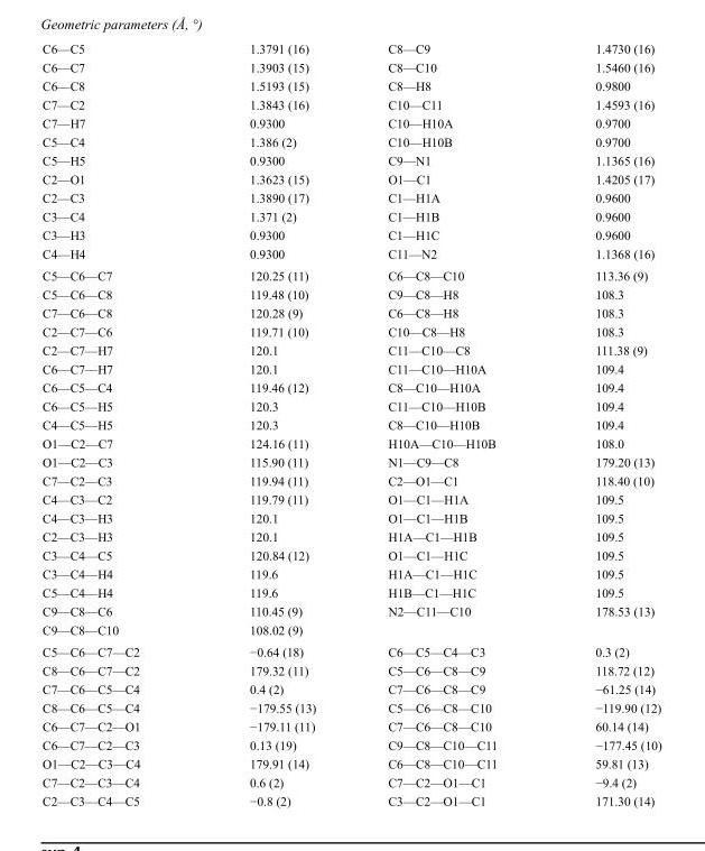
<table><tbody><tr><td>C6—C5</td><td>1.3791 (16)</td><td>C8—C9</td><td>1.4730 (16)</td></tr><tr><td>C6—C7</td><td>1.3903 (15)</td><td>C8—C10</td><td>1.5460 (16)</td></tr><tr><td>C6—C8</td><td>1.5193 (15)</td><td>C8—H8</td><td>0.9800</td></tr><tr><td>C7—C2</td><td>1.3843 (16)</td><td>C10—C11</td><td>1.4593 (16)</td></tr><tr><td>C7—H7</td><td>0.9300</td><td>C10—H10A</td><td>0.9700</td></tr><tr><td>C5—C4</td><td>1.386 (2)</td><td>C10—H10B</td><td>0.9700</td></tr><tr><td>C5—H5</td><td>0.9300</td><td>C9—N1</td><td>1.1365 (16)</td></tr><tr><td>C2—O1</td><td>1.3623 (15)</td><td>O1—C1</td><td>1.4205 (17)</td></tr><tr><td>C2—C3</td><td>1.3890 (17)</td><td>C1—H1A</td><td>0.9600</td></tr><tr><td>C3—C4</td><td>1.371 (2)</td><td>C1—H1B</td><td>0.9600</td></tr><tr><td>C3—H3</td><td>0.9300</td><td>C1—H1C</td><td>0.9600</td></tr><tr><td>C4—H4</td><td>0.9300</td><td>C11—N2</td><td>1.1368 (16)</td></tr><tr><td>C5—C6—C7</td><td>120.25 (11)</td><td>C6—C8—C10</td><td>113.36 (9)</td></tr><tr><td>C5—C6—C8</td><td>119.48 (10)</td><td>C9—C8—H8</td><td>108.3</td></tr><tr><td>C7—C6—C8</td><td>120.28 (9)</td><td>C6—C8—H8</td><td>108.3</td></tr><tr><td>C2—C7—C6</td><td>119.71 (10)</td><td>C10—C8—H8</td><td>108.3</td></tr><tr><td>C2—C7—H7</td><td>120.1</td><td>C11—C10—C8</td><td>111.38 (9)</td></tr><tr><td>C6—C7—H7</td><td>120.1</td><td>C11—C10—H10A</td><td>109.4</td></tr><tr><td>C6—C5—C4</td><td>119.46 (12)</td><td>C8—C10—H10A</td><td>109.4</td></tr><tr><td>C6—C5—H5</td><td>120.3</td><td>C11—C10—H10B</td><td>109.4</td></tr><tr><td>C4—C5—H5</td><td>120.3</td><td>C8—C10—H10B</td><td>109.4</td></tr><tr><td>O1—C2—C7</td><td>124.16 (11)</td><td>H10A—C10—H10B</td><td>108.0</td></tr><tr><td>O1—C2—C3</td><td>115.90 (11)</td><td>N1—C9—C8</td><td>179.20 (13)</td></tr><tr><td>C7—C2—C3</td><td>119.94 (11)</td><td>C2—O1—C1</td><td>118.40 (10)</td></tr><tr><td>C4—C3—C2</td><td>119.79 (11)</td><td>O1—C1—H1A</td><td>109.5</td></tr><tr><td>C4—C3—H3</td><td>120.1</td><td>O1—C1—H1B</td><td>109.5</td></tr><tr><td>C2—C3—H3</td><td>120.1</td><td>H1A—C1—H1B</td><td>109.5</td></tr><tr><td>C3—C4—C5</td><td>120.84 (12)</td><td>O1—C1—H1C</td><td>109.5</td></tr><tr><td>C3—C4—H4</td><td>119.6</td><td>H1A—C1—H1C</td><td>109.5</td></tr><tr><td>C5—C4—H4</td><td>119.6</td><td>H1B—C1—H1C</td><td>109.5</td></tr><tr><td>C9—C8—C6</td><td>110.45 (9)</td><td>N2—C11—C10</td><td>178.53 (13)</td></tr><tr><td>C9—C8—C10</td><td>108.02 (9)</td><td></td><td></td></tr><tr><td>C5—C6—C7—C2</td><td>−0.64 (18)</td><td>C6—C5—C4—C3</td><td>0.3 (2)</td></tr><tr><td>C8—C6—C7—C2</td><td>179.32 (11)</td><td>C5—C6—C8—C9</td><td>118.72 (12)</td></tr><tr><td>C7—C6—C5—C4</td><td>0.4 (2)</td><td>C7—C6—C8—C9</td><td>−61.25 (14)</td></tr><tr><td>C8—C6—C5—C4</td><td>−179.55 (13)</td><td>C5—C6—C8—C10</td><td>−119.90 (12)</td></tr><tr><td>C6—C7—C2—O1</td><td>−179.11 (11)</td><td>C7—C6—C8—C10</td><td>60.14 (14)</td></tr><tr><td>C6—C7—C2—C3</td><td>0.13 (19)</td><td>C9—C8—C10—C11</td><td>−177.45 (10)</td></tr><tr><td>O1—C2—C3—C4</td><td>179.91 (14)</td><td>C6—C8—C10—C11</td><td>59.81 (13)</td></tr><tr><td>C7—C2—C3—C4</td><td>0.6 (2)</td><td>C7—C2—O1—C1</td><td>−9.4 (2)</td></tr><tr><td>C2—C3—C4—C5</td><td>−0.8 (2)</td><td>C3—C2—O1—C1</td><td>171.30 (14)</td></tr></tbody></table>